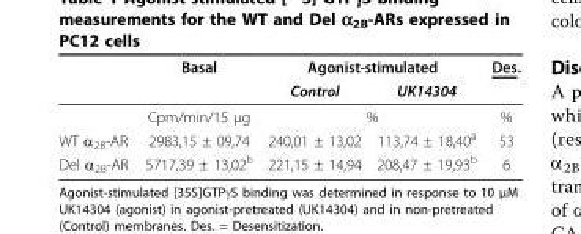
<table><thead><tr><td rowspan="2"></td><td rowspan="2">Basal</td><td colspan="2">Agonist-stimulated</td><td rowspan="2">Des.</td></tr><tr><td>Control</td><td>UK14304</td></tr></thead><tbody><tr><td></td><td>Cpm/min/15 μg</td><td colspan="2">%</td><td>%</td></tr><tr><td>WT α<sub>2B</sub>-AR</td><td>2983,15 ± 09,74</td><td>240,01 ± 13,02</td><td>113,74 ± 18,40<sup>a</sup></td><td>53</td></tr><tr><td>Del α<sub>2B</sub>-AR</td><td>5717,39 ± 13,02<sup>b</sup></td><td>221,15 ± 14,94</td><td>208,47 ± 19,93<sup>b</sup></td><td>6</td></tr></tbody></table>